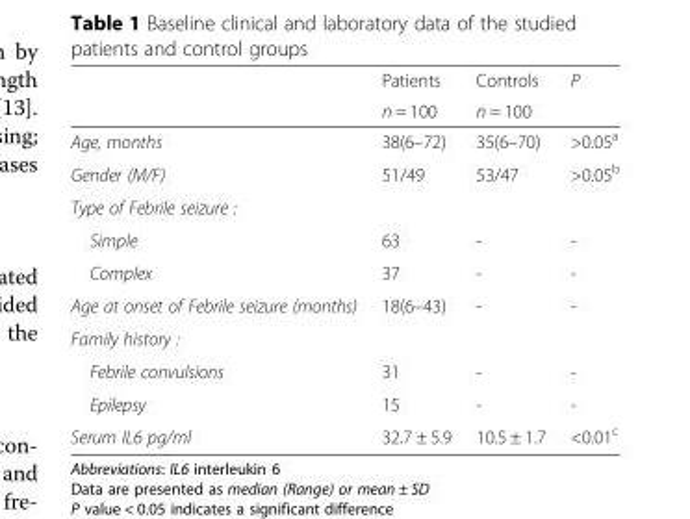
<table><thead><tr><td rowspan="2"></td><td rowspan="2">Patients n = 100</td><td rowspan="2">Controls n = 100</td><td rowspan="2">P</td></tr><tr></tr></thead><tbody><tr><td>Age, months</td><td>38(6–72)</td><td>35(6–70)</td><td>&gt;0.05<sup>a</sup></td></tr><tr><td>Gender (M/F)</td><td>51/49</td><td>53/47</td><td>&gt;0.05<sup>b</sup></td></tr><tr><td colspan="4">Type of Febrile seizure :</td></tr><tr><td>Simple</td><td>63</td><td>-</td><td>-</td></tr><tr><td>Complex</td><td>37</td><td>-</td><td>-</td></tr><tr><td>Age at onset of Febrile seizure (months)</td><td>18(6–43)</td><td>-</td><td>-</td></tr><tr><td colspan="4">Family history :</td></tr><tr><td>Febrile convulsions</td><td>31</td><td>-</td><td>-</td></tr><tr><td>Epilepsy</td><td>15</td><td>-</td><td>-</td></tr><tr><td>Serum IL6 pg/ml</td><td>32.7 ± 5.9</td><td>10.5 ± 1.7</td><td>&lt;0.01<sup>c</sup></td></tr></tbody></table>